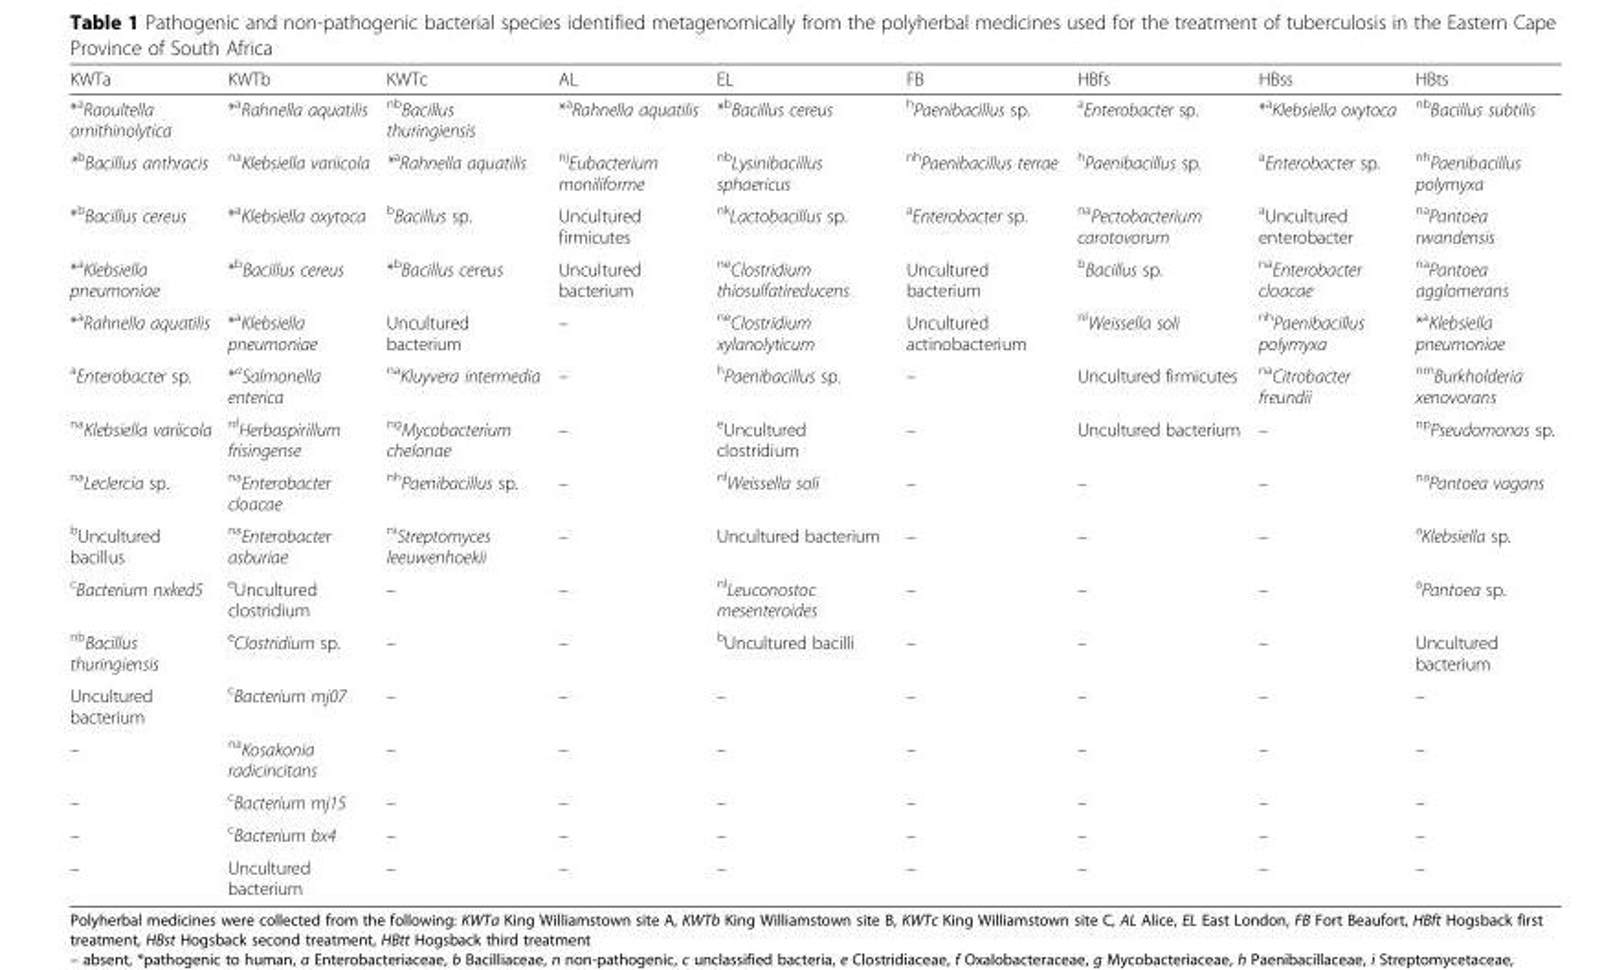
<table><thead><tr><td>KWTa</td><td>KWTb</td><td>KWTc</td><td>AL</td><td>EL</td><td>FB</td><td>HBfs</td><td>HBss</td><td>HBts</td></tr></thead><tbody><tr><td>*<sup>a</sup>Raoultella ornithinolytica</td><td>*<sup>a</sup>Rahnella aquatilis</td><td><sup>nb</sup>Bacillus thuringiensis</td><td>*<sup>a</sup>Rahnella aquatilis</td><td>*<sup>b</sup>Bacillus cereus</td><td><sup>h</sup>Paenibacillus sp.</td><td><sup>a</sup>Enterobacter sp.</td><td>*<sup>a</sup>Klebsiella oxytoca</td><td><sup>nb</sup>Bacillus subtilis</td></tr><tr><td>*<sup>b</sup>Bacillus anthracis</td><td><sup>na</sup>Klebsiella variicola</td><td>*<sup>a</sup>Rahnella aquatilis</td><td><sup>nj</sup>Eubacterium moniliforme</td><td><sup>nb</sup>Lysinibacillus sphaericus</td><td><sup>nh</sup>Paenibacillus terrae</td><td><sup>h</sup>Paenibacillus sp.</td><td><sup>a</sup>Enterobacter sp.</td><td><sup>nh</sup>Paenibacillus polymyxa</td></tr><tr><td>*<sup>b</sup>Bacillus cereus</td><td>*<sup>a</sup>Klebsiella oxytoca</td><td><sup>b</sup>Bacillus sp.</td><td>Uncultured firmicutes</td><td><sup>nk</sup>Lactobacillus sp.</td><td><sup>a</sup>Enterobacter sp.</td><td><sup>na</sup>Pectobacterium carotovorum</td><td><sup>a</sup>Uncultured enterobacter</td><td><sup>na</sup>Pantoea rwandensis</td></tr><tr><td>*<sup>a</sup>Klebsiella pneumoniae</td><td>*<sup>b</sup>Bacillus cereus</td><td>*<sup>b</sup>Bacillus cereus</td><td>Uncultured bacterium</td><td><sup>ne</sup>Clostridium thiosulfatireducens</td><td>Uncultured bacterium</td><td><sup>b</sup>Bacillus sp.</td><td><sup>na</sup>Enterobacter cloacae</td><td><sup>na</sup>Pantoea agglomerans</td></tr><tr><td>*<sup>a</sup>Rahnella aquatilis</td><td>*<sup>a</sup>Klebsiella pneumoniae</td><td>Uncultured bacterium</td><td>–</td><td><sup>ne</sup>Clostridium xylanolyticum</td><td>Uncultured actinobacterium</td><td><sup>nl</sup>Weissella soli</td><td><sup>nh</sup>Paenibacillus polymyxa</td><td>*<sup>a</sup>Klebsiella pneumoniae</td></tr><tr><td><sup>a</sup>Enterobacter sp.</td><td>*<sup>a</sup>Salmonella enterica</td><td><sup>na</sup>Kluyvera intermedia</td><td>–</td><td><sup>h</sup>Paenibacillus sp.</td><td>–</td><td>Uncultured firmicutes</td><td><sup>na</sup>Citrobacter freundii</td><td><sup>nm</sup>Burkholderia xenovorans</td></tr><tr><td><sup>na</sup>Klebsiella variicola</td><td><sup>nf</sup>Herbaspirillum frisingense</td><td><sup>ng</sup>Mycobacterium chelonae</td><td>–</td><td><sup>e</sup>Uncultured clostridium</td><td>–</td><td>Uncultured bacterium</td><td>–</td><td><sup>np</sup>Pseudomonas sp.</td></tr><tr><td><sup>na</sup>Leclercia sp.</td><td><sup>na</sup>Enterobacter cloacae</td><td><sup>nh</sup>Paenibacillus sp.</td><td>–</td><td><sup>nl</sup>Weissella soli</td><td>–</td><td>–</td><td>–</td><td><sup>na</sup>Pantoea vagans</td></tr><tr><td><sup>b</sup>Uncultured bacillus</td><td><sup>na</sup>Enterobacter asburiae</td><td><sup>ni</sup>Streptomyces leeuwenhoekii</td><td>–</td><td>Uncultured bacterium</td><td>–</td><td>–</td><td>–</td><td><sup>a</sup>Klebsiella sp.</td></tr><tr><td><sup>c</sup>Bacterium nxked5</td><td><sup>e</sup>Uncultured clostridium</td><td>–</td><td>–</td><td><sup>nl</sup>Leuconostoc mesenteroides</td><td>–</td><td>–</td><td>–</td><td><sup>a</sup>Pantoea sp.</td></tr><tr><td><sup>nb</sup>Bacillus thuringiensis</td><td><sup>e</sup>Clostridium sp.</td><td>–</td><td>–</td><td><sup>b</sup>Uncultured bacilli</td><td>–</td><td>–</td><td>–</td><td>Uncultured bacterium</td></tr><tr><td>Uncultured bacterium</td><td><sup>c</sup>Bacterium mj07</td><td>–</td><td>–</td><td>–</td><td>–</td><td>–</td><td>–</td><td>–</td></tr><tr><td>–</td><td><sup>na</sup>Kosakonia radicincitans</td><td>–</td><td>–</td><td>–</td><td>–</td><td>–</td><td>–</td><td>–</td></tr><tr><td>–</td><td><sup>c</sup>Bacterium mj15</td><td>–</td><td>–</td><td>–</td><td>–</td><td>–</td><td>–</td><td>–</td></tr><tr><td>–</td><td><sup>c</sup>Bacterium bx4</td><td>–</td><td>–</td><td>–</td><td>–</td><td>–</td><td>–</td><td>–</td></tr><tr><td>–</td><td>Uncultured bacterium</td><td>–</td><td>–</td><td>–</td><td>–</td><td>–</td><td>–</td><td>–</td></tr></tbody></table>